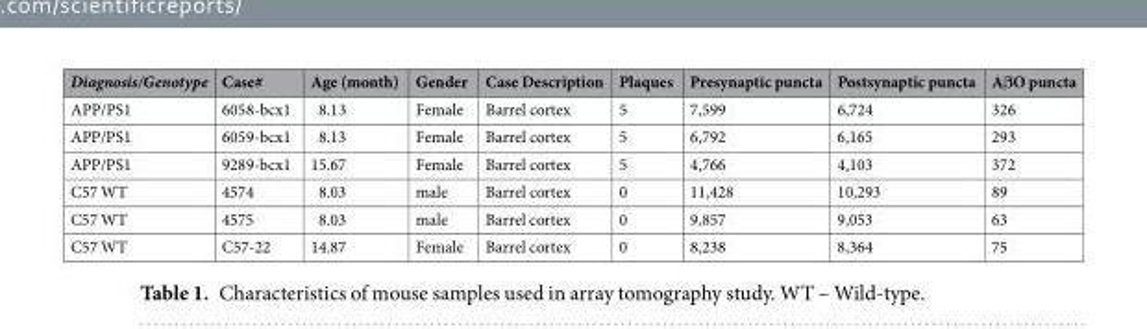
<table><thead><tr><td>Diagnosis/Genotype</td><td>Case#</td><td>Age (month)</td><td>Gender</td><td>Case Description</td><td>Plaques</td><td>Presynaptic puncta</td><td>Postsynaptic puncta</td><td>AβO puncta</td></tr></thead><tbody><tr><td>APP/PS1</td><td>6058-bcx1</td><td>8.13</td><td>Female</td><td>Barrel cortex</td><td>5</td><td>7,599</td><td>6,724</td><td>326</td></tr><tr><td>APP/PS1</td><td>6059-bcx1</td><td>8.13</td><td>Female</td><td>Barrel cortex</td><td>5</td><td>6,792</td><td>6,165</td><td>293</td></tr><tr><td>APP/PS1</td><td>9289-bcx1</td><td>15.67</td><td>Female</td><td>Barrel cortex</td><td>5</td><td>4,766</td><td>4,103</td><td>372</td></tr><tr><td>C57 WT</td><td>4574</td><td>8.03</td><td>male</td><td>Barrel cortex</td><td>0</td><td>11,428</td><td>10,293</td><td>89</td></tr><tr><td>C57 WT</td><td>4575</td><td>8.03</td><td>male</td><td>Barrel cortex</td><td>0</td><td>9,857</td><td>9,053</td><td>63</td></tr><tr><td>C57 WT</td><td>C57-22</td><td>14.87</td><td>Female</td><td>Barrel cortex</td><td>0</td><td>8,238</td><td>8,364</td><td>75</td></tr></tbody></table>